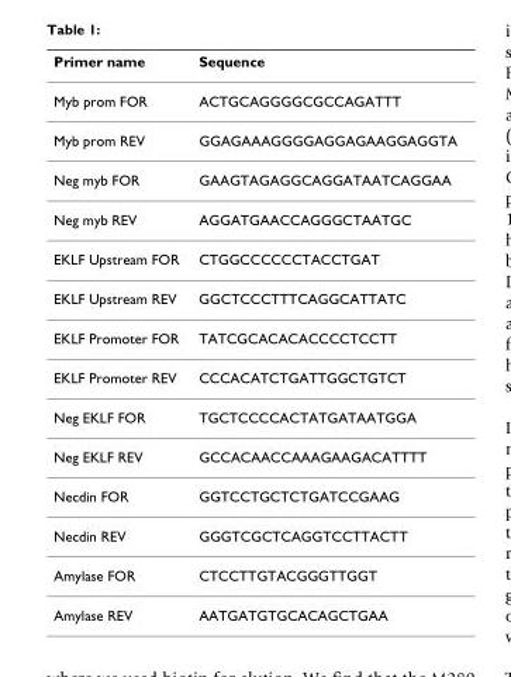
<table><thead><tr><td>Primer name</td><td>Sequence</td></tr></thead><tbody><tr><td>Myb prom FOR</td><td>ACTGCAGGGGCGCCAGATTT</td></tr><tr><td>Myb prom REV</td><td>GGAGAAAGGGGAGGAGAAGGAGGTA</td></tr><tr><td>Neg myb FOR</td><td>GAAGTAGAGGCAGGATAATCAGGAA</td></tr><tr><td>Neg myb REV</td><td>AGGATGAACCAGGGCTAATGC</td></tr><tr><td>EKLF Upstream FOR</td><td>CTGGCCCCCCTACCTGAT</td></tr><tr><td>EKLF Upstream REV</td><td>GGCTCCCTTTCAGGCATTATC</td></tr><tr><td>EKLF Promoter FOR</td><td>TATCGCACACACCCCTCCTT</td></tr><tr><td>EKLF Promoter REV</td><td>CCCACATCTGATTGGCTGTCT</td></tr><tr><td>Neg EKLF FOR</td><td>TGCTCCCCACTATGATAATGGA</td></tr><tr><td>Neg EKLF REV</td><td>GCCACAACCAAAGAAGACATTTT</td></tr><tr><td>Necdin FOR</td><td>GGTCCTGCTCTGATCCGAAG</td></tr><tr><td>Necdin REV</td><td>GGGTCGCTCAGGTCCTTACTT</td></tr><tr><td>Amylase FOR</td><td>CTCCTTGTACGGGTTGGT</td></tr><tr><td>Amylase REV</td><td>AATGATGTGCACAGCTGAA</td></tr></tbody></table>